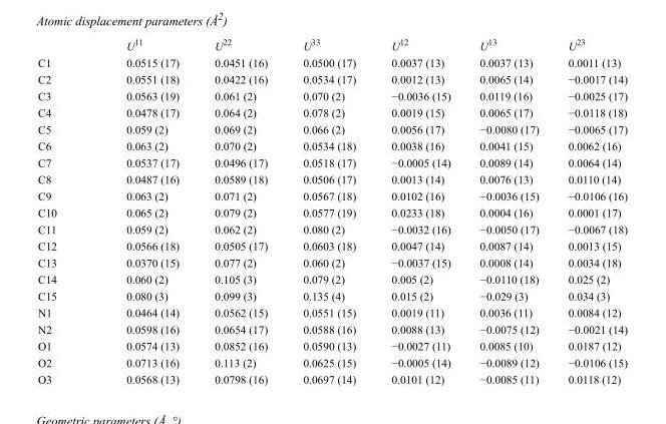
<table><thead><tr><td></td><td>U<sup>11</sup></td><td>U<sup>22</sup></td><td>U<sup>33</sup></td><td>U<sup>12</sup></td><td>U<sup>13</sup></td><td>U<sup>23</sup></td></tr></thead><tbody><tr><td>C1</td><td>0.0515 (17)</td><td>0.0451 (16)</td><td>0.0500 (17)</td><td>0.0037 (13)</td><td>0.0037 (13)</td><td>0.0011 (13)</td></tr><tr><td>C2</td><td>0.0551 (18)</td><td>0.0422 (16)</td><td>0.0534 (17)</td><td>0.0012 (13)</td><td>0.0065 (14)</td><td>−0.0017 (14)</td></tr><tr><td>C3</td><td>0.0563 (19)</td><td>0.061 (2)</td><td>0.070 (2)</td><td>−0.0036 (15)</td><td>0.0119 (16)</td><td>−0.0025 (17)</td></tr><tr><td>C4</td><td>0.0478 (17)</td><td>0.064 (2)</td><td>0.078 (2)</td><td>0.0019 (15)</td><td>0.0065 (17)</td><td>−0.0118 (18)</td></tr><tr><td>C5</td><td>0.059 (2)</td><td>0.069 (2)</td><td>0.066 (2)</td><td>0.0056 (17)</td><td>−0.0080 (17)</td><td>−0.0065 (17)</td></tr><tr><td>C6</td><td>0.063 (2)</td><td>0.070 (2)</td><td>0.0534 (18)</td><td>0.0038 (16)</td><td>0.0041 (15)</td><td>0.0062 (16)</td></tr><tr><td>C7</td><td>0.0537 (17)</td><td>0.0496 (17)</td><td>0.0518 (17)</td><td>−0.0005 (14)</td><td>0.0089 (14)</td><td>0.0064 (14)</td></tr><tr><td>C8</td><td>0.0487 (16)</td><td>0.0589 (18)</td><td>0.0506 (17)</td><td>0.0013 (14)</td><td>0.0076 (13)</td><td>0.0110 (14)</td></tr><tr><td>C9</td><td>0.063 (2)</td><td>0.071 (2)</td><td>0.0567 (18)</td><td>0.0102 (16)</td><td>−0.0036 (15)</td><td>−0.0106 (16)</td></tr><tr><td>C10</td><td>0.065 (2)</td><td>0.079 (2)</td><td>0.0577 (19)</td><td>0.0233 (18)</td><td>0.0004 (16)</td><td>0.0001 (17)</td></tr><tr><td>C11</td><td>0.059 (2)</td><td>0.062 (2)</td><td>0.080 (2)</td><td>−0.0032 (16)</td><td>−0.0050 (17)</td><td>−0.0067 (18)</td></tr><tr><td>C12</td><td>0.0566 (18)</td><td>0.0505 (17)</td><td>0.0603 (18)</td><td>0.0047 (14)</td><td>0.0087 (14)</td><td>0.0013 (15)</td></tr><tr><td>C13</td><td>0.0370 (15)</td><td>0.077 (2)</td><td>0.060 (2)</td><td>−0.0037 (15)</td><td>0.0008 (14)</td><td>0.0034 (18)</td></tr><tr><td>C14</td><td>0.060 (2)</td><td>0.105 (3)</td><td>0.079 (2)</td><td>0.005 (2)</td><td>−0.0110 (18)</td><td>0.025 (2)</td></tr><tr><td>C15</td><td>0.080 (3)</td><td>0.099 (3)</td><td>0.135 (4)</td><td>0.015 (2)</td><td>−0.029 (3)</td><td>0.034 (3)</td></tr><tr><td>N1</td><td>0.0464 (14)</td><td>0.0562 (15)</td><td>0.0551 (15)</td><td>0.0019 (11)</td><td>0.0036 (11)</td><td>0.0084 (12)</td></tr><tr><td>N2</td><td>0.0598 (16)</td><td>0.0654 (17)</td><td>0.0588 (16)</td><td>0.0088 (13)</td><td>−0.0075 (12)</td><td>−0.0021 (14)</td></tr><tr><td>O1</td><td>0.0574 (13)</td><td>0.0852 (16)</td><td>0.0590 (13)</td><td>−0.0027 (11)</td><td>0.0085 (10)</td><td>0.0187 (12)</td></tr><tr><td>O2</td><td>0.0713 (16)</td><td>0.113 (2)</td><td>0.0625 (15)</td><td>−0.0005 (14)</td><td>−0.0089 (12)</td><td>−0.0106 (15)</td></tr><tr><td>O3</td><td>0.0568 (13)</td><td>0.0798 (16)</td><td>0.0697 (14)</td><td>0.0101 (12)</td><td>−0.0085 (11)</td><td>0.0118 (12)</td></tr></tbody></table>